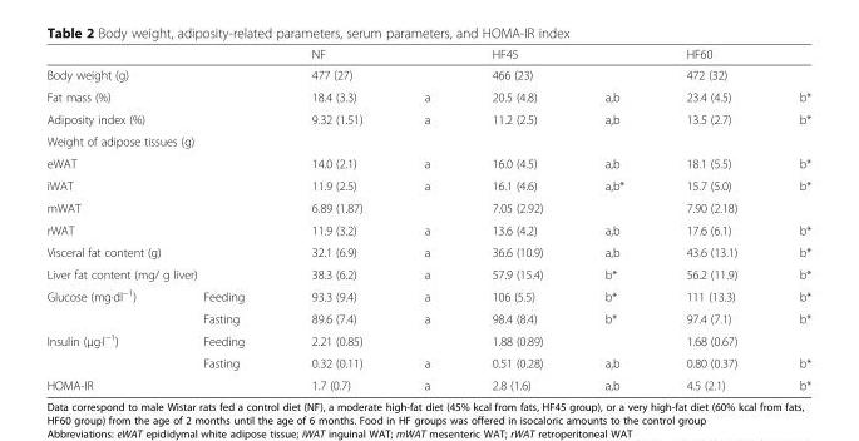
<table><thead><tr><td></td><td></td><td colspan="2">NF</td><td colspan="2">HF45</td><td colspan="2">HF60</td></tr><tr><td colspan="2">Body weight (g)</td><td>477 (27)</td><td></td><td>466 (23)</td><td></td><td>472 (32)</td><td></td></tr></thead><tbody><tr><td colspan="2">Fat mass (%)</td><td>18.4 (3.3)</td><td>a</td><td>20.5 (4.8)</td><td>a,b</td><td>23.4 (4.5)</td><td>b*</td></tr><tr><td colspan="2">Adiposity index (%)</td><td>9.32 (1.51)</td><td>a</td><td>11.2 (2.5)</td><td>a,b</td><td>13.5 (2.7)</td><td>b*</td></tr><tr><td colspan="8">Weight of adipose tissues (g)</td></tr><tr><td colspan="2">eWAT</td><td>14.0 (2.1)</td><td>a</td><td>16.0 (4.5)</td><td>a,b</td><td>18.1 (5.5)</td><td>b*</td></tr><tr><td colspan="2">iWAT</td><td>11.9 (2.5)</td><td>a</td><td>16.1 (4.6)</td><td>a,b*</td><td>15.7 (5.0)</td><td>b*</td></tr><tr><td colspan="2">mWAT</td><td>6.89 (1.87)</td><td></td><td>7.05 (2.92)</td><td></td><td>7.90 (2.18)</td><td></td></tr><tr><td colspan="2">rWAT</td><td>11.9 (3.2)</td><td>a</td><td>13.6 (4.2)</td><td>a,b</td><td>17.6 (6.1)</td><td>b*</td></tr><tr><td colspan="2">Visceral fat content (g)</td><td>32.1 (6.9)</td><td>a</td><td>36.6 (10.9)</td><td>a,b</td><td>43.6 (13.1)</td><td>b*</td></tr><tr><td colspan="2">Liver fat content (mg/ g liver)</td><td>38.3 (6.2)</td><td>a</td><td>57.9 (15.4)</td><td>b*</td><td>56.2 (11.9)</td><td>b*</td></tr><tr><td rowspan="2">Glucose (mg·dl<sup>−1</sup>)</td><td>Feeding</td><td>93.3 (9.4)</td><td>a</td><td>106 (5.5)</td><td>b*</td><td>111 (13.3)</td><td>b*</td></tr><tr><td>Fasting</td><td>89.6 (7.4)</td><td>a</td><td>98.4 (8.4)</td><td>b*</td><td>97.4 (7.1)</td><td>b*</td></tr><tr><td rowspan="2">Insulin (μg·l<sup>−1</sup>)</td><td>Feeding</td><td>2.21 (0.85)</td><td></td><td>1.88 (0.89)</td><td></td><td>1.68 (0.67)</td><td></td></tr><tr><td>Fasting</td><td>0.32 (0.11)</td><td>a</td><td>0.51 (0.28)</td><td>a,b</td><td>0.80 (0.37)</td><td>b*</td></tr><tr><td colspan="2">HOMA-IR</td><td>1.7 (0.7)</td><td>a</td><td>2.8 (1.6)</td><td>a,b</td><td>4.5 (2.1)</td><td>b*</td></tr></tbody></table>